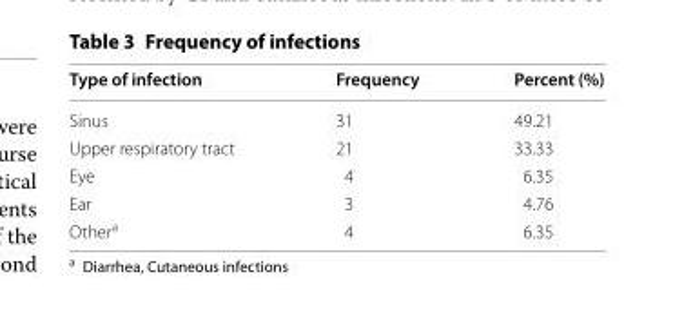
<table><thead><tr><td>Type of infection</td><td>Frequency</td><td>Percent (%)</td></tr></thead><tbody><tr><td>Sinus</td><td>31</td><td>49.21</td></tr><tr><td>Upper respiratory tract</td><td>21</td><td>33.33</td></tr><tr><td>Eye</td><td>4</td><td>6.35</td></tr><tr><td>Ear</td><td>3</td><td>4.76</td></tr><tr><td>Other<sup>a</sup></td><td>4</td><td>6.35</td></tr></tbody></table>